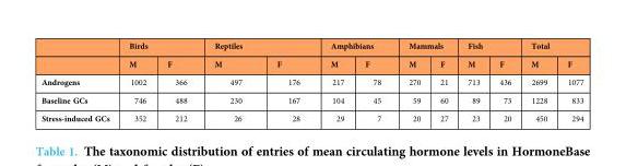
<table><thead><tr><td rowspan="2"></td><td colspan="2">Birds</td><td colspan="2">Reptiles</td><td colspan="2">Amphibians</td><td colspan="2">Mammals</td><td colspan="2">Fish</td><td colspan="2">Total</td></tr><tr><td>M</td><td>F</td><td>M</td><td>F</td><td>M</td><td>F</td><td>M</td><td>F</td><td>M</td><td>F</td><td>M</td><td>F</td></tr></thead><tbody><tr><td>Androgens</td><td>1002</td><td>366</td><td>497</td><td>176</td><td>217</td><td>78</td><td>270</td><td>21</td><td>713</td><td>436</td><td>2699</td><td>1077</td></tr><tr><td>Baseline GCs</td><td>746</td><td>488</td><td>230</td><td>167</td><td>104</td><td>45</td><td>59</td><td>60</td><td>89</td><td>73</td><td>1228</td><td>833</td></tr><tr><td>Stress-induced GCs</td><td>352</td><td>212</td><td>26</td><td>28</td><td>29</td><td>7</td><td>20</td><td>27</td><td>23</td><td>20</td><td>450</td><td>294</td></tr></tbody></table>